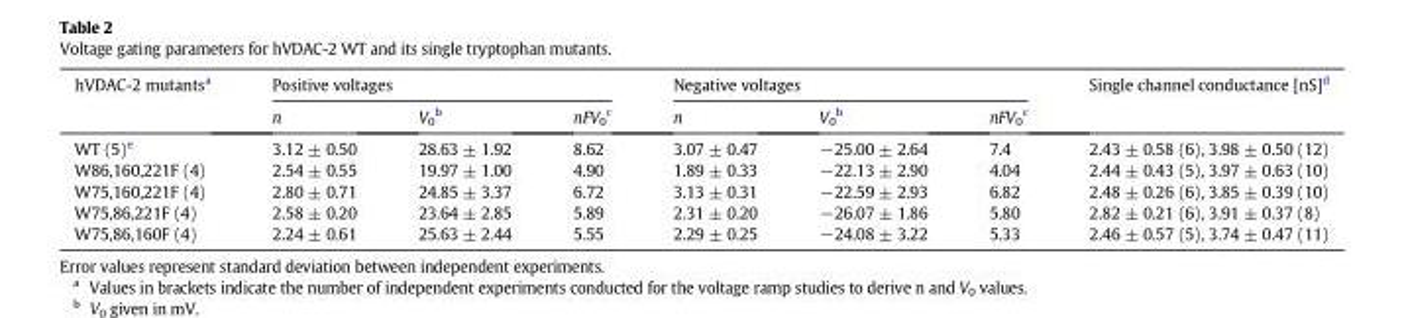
<table><thead><tr><td rowspan="2">hVDAC-2 mutants<sup>a</sup></td><td colspan="3">Positive voltages</td><td colspan="3">Negative voltages</td><td rowspan="2">Single channel conductance [nS]<sup>d</sup></td></tr><tr><td>n</td><td>V<sub>0</sub> <sup>b</sup></td><td>nFV<sub>0</sub> <sup>c</sup></td><td>n</td><td>V<sub>0</sub> <sup>b</sup></td><td>nFV<sub>0</sub> <sup>c</sup></td></tr></thead><tbody><tr><td>WT (5)<sup>e</sup></td><td>3.12 ± 0.50</td><td>28.63 ± 1.92</td><td>8.62</td><td>3.07 ± 0.47</td><td>−25.00 ± 2.64</td><td>7.4</td><td>2.43 ± 0.58 (6), 3.98 ± 0.50 (12)</td></tr><tr><td>W86,160,221F (4)</td><td>2.54 ± 0.55</td><td>19.97 ± 1.00</td><td>4.90</td><td>1.89 ± 0.33</td><td>−22.13 ± 2.90</td><td>4.04</td><td>2.44 ± 0.43 (5), 3.97 ± 0.63 (10)</td></tr><tr><td>W75,160,221F (4)</td><td>2.80 ± 0.71</td><td>24.85 ± 3.37</td><td>6.72</td><td>3.13 ± 0.31</td><td>−22.59 ± 2.93</td><td>6.82</td><td>2.48 ± 0.26 (6), 3.85 ± 0.39 (10)</td></tr><tr><td>W75,86,221F (4)</td><td>2.58 ± 0.20</td><td>23.64 ± 2.85</td><td>5.89</td><td>2.31 ± 0.20</td><td>−26.07 ± 1.86</td><td>5.80</td><td>2.82 ± 0.21 (6), 3.91 ± 0.37 (8)</td></tr><tr><td>W75,86,160F (4)</td><td>2.24 ± 0.61</td><td>25.63 ± 2.44</td><td>5.55</td><td>2.29 ± 0.25</td><td>−24.08 ± 3.22</td><td>5.33</td><td>2.46 ± 0.57 (5), 3.74 ± 0.47 (11)</td></tr></tbody></table>